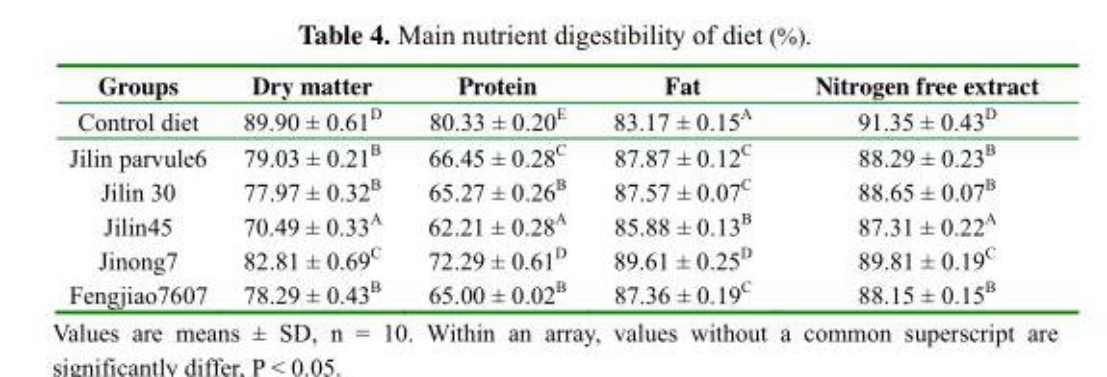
<table><thead><tr><td>Groups</td><td>Dry matter</td><td>Protein</td><td>Fat</td><td>Nitrogen free extract</td></tr></thead><tbody><tr><td>Control diet</td><td>89.90 ± 0.61<sup>D</sup></td><td>80.33 ± 0.20<sup>E</sup></td><td>83.17 ± 0.15<sup>A</sup></td><td>91.35 ± 0.43<sup>D</sup></td></tr><tr><td>Jilin parvule6</td><td>79.03 ± 0.21<sup>B</sup></td><td>66.45 ± 0.28<sup>C</sup></td><td>87.87 ± 0.12<sup>C</sup></td><td>88.29 ± 0.23<sup>B</sup></td></tr><tr><td>Jilin 30</td><td>77.97 ± 0.32<sup>B</sup></td><td>65.27 ± 0.26<sup>B</sup></td><td>87.57 ± 0.07<sup>C</sup></td><td>88.65 ± 0.07<sup>B</sup></td></tr><tr><td>Jilin45</td><td>70.49 ± 0.33<sup>A</sup></td><td>62.21 ± 0.28<sup>A</sup></td><td>85.88 ± 0.13<sup>B</sup></td><td>87.31 ± 0.22<sup>A</sup></td></tr><tr><td>Jinong7</td><td>82.81 ± 0.69<sup>C</sup></td><td>72.29 ± 0.61<sup>D</sup></td><td>89.61 ± 0.25<sup>D</sup></td><td>89.81 ± 0.19<sup>C</sup></td></tr><tr><td>Fengjiao7607</td><td>78.29 ± 0.43<sup>B</sup></td><td>65.00 ± 0.02<sup>B</sup></td><td>87.36 ± 0.19<sup>C</sup></td><td>88.15 ± 0.15<sup>B</sup></td></tr></tbody></table>